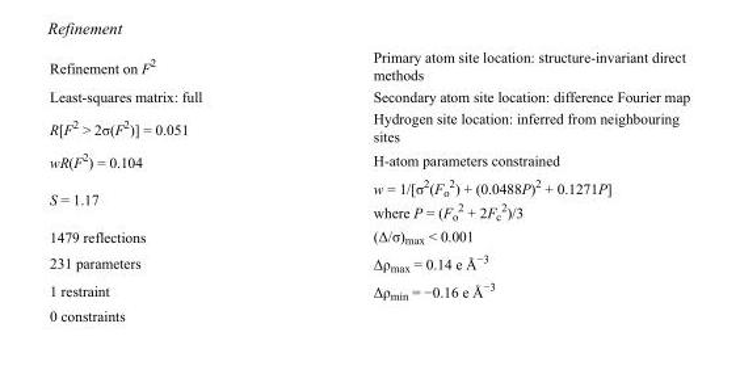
<table><tbody><tr><td>Refinement on F<sup>2</sup></td><td>Primary atom site location: structure-invariant direct methods</td></tr><tr><td>Least-squares matrix: full</td><td>Secondary atom site location: difference Fourier map</td></tr><tr><td>R[F<sup>2</sup> &gt; 2σ(F<sup>2</sup>)] = 0.051</td><td>Hydrogen site location: inferred from neighbouring sites</td></tr><tr><td>wR(F<sup>2</sup>) = 0.104</td><td>H-atom parameters constrained</td></tr><tr><td>S = 1.17</td><td>w = 1/[σ<sup>2</sup>(F<sub>o</sub> <sup>2</sup>) + (0.0488P)<sup>2</sup> + 0.1271P] where P = (F<sub>o</sub> <sup>2</sup> + 2F<sub>c</sub> <sup>2</sup>)/3</td></tr><tr><td>1479 reflections</td><td>(Δ/σ)<sub>max</sub> &lt; 0.001</td></tr><tr><td>231 parameters</td><td>Δρ<sub>max</sub> = 0.14 e Å<sup>−3</sup></td></tr><tr><td>1 restraint</td><td>Δρ<sub>min</sub> = −0.16 e Å<sup>−3</sup></td></tr><tr><td>0 constraints</td><td></td></tr></tbody></table>